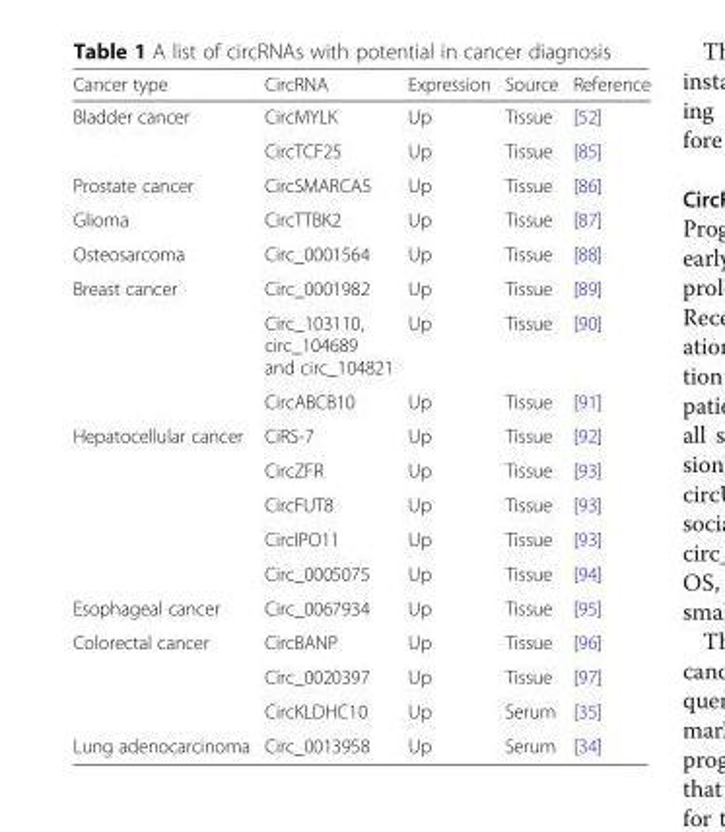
<table><thead><tr><td>Cancer type</td><td>CircRNA</td><td>Expression</td><td>Source</td><td>Reference</td></tr></thead><tbody><tr><td rowspan="2">Bladder cancer</td><td>CircMYLK</td><td>Up</td><td>Tissue</td><td>[52]</td></tr><tr><td>CircTCF25</td><td>Up</td><td>Tissue</td><td>[85]</td></tr><tr><td>Prostate cancer</td><td>CircSMARCA5</td><td>Up</td><td>Tissue</td><td>[86]</td></tr><tr><td>Glioma</td><td>CircTTBK2</td><td>Up</td><td>Tissue</td><td>[87]</td></tr><tr><td>Osteosarcoma</td><td>Circ_0001564</td><td>Up</td><td>Tissue</td><td>[88]</td></tr><tr><td rowspan="3">Breast cancer</td><td>Circ_0001982</td><td>Up</td><td>Tissue</td><td>[89]</td></tr><tr><td>Circ_103110, circ_104689 and circ_104821</td><td>Up</td><td>Tissue</td><td>[90]</td></tr><tr><td>CircABCB10</td><td>Up</td><td>Tissue</td><td>[91]</td></tr><tr><td rowspan="5">Hepatocellular cancer</td><td>CiRS-7</td><td>Up</td><td>Tissue</td><td>[92]</td></tr><tr><td>CircZFR</td><td>Up</td><td>Tissue</td><td>[93]</td></tr><tr><td>CircFUT8</td><td>Up</td><td>Tissue</td><td>[93]</td></tr><tr><td>CircIPO11</td><td>Up</td><td>Tissue</td><td>[93]</td></tr><tr><td>Circ_0005075</td><td>Up</td><td>Tissue</td><td>[94]</td></tr><tr><td>Esophageal cancer</td><td>Circ_0067934</td><td>Up</td><td>Tissue</td><td>[95]</td></tr><tr><td rowspan="3">Colorectal cancer</td><td>CircBANP</td><td>Up</td><td>Tissue</td><td>[96]</td></tr><tr><td>Circ_0020397</td><td>Up</td><td>Tissue</td><td>[97]</td></tr><tr><td>CircKLDHC10</td><td>Up</td><td>Serum</td><td>[35]</td></tr><tr><td>Lung adenocarcinoma</td><td>Circ_0013958</td><td>Up</td><td>Serum</td><td>[34]</td></tr></tbody></table>